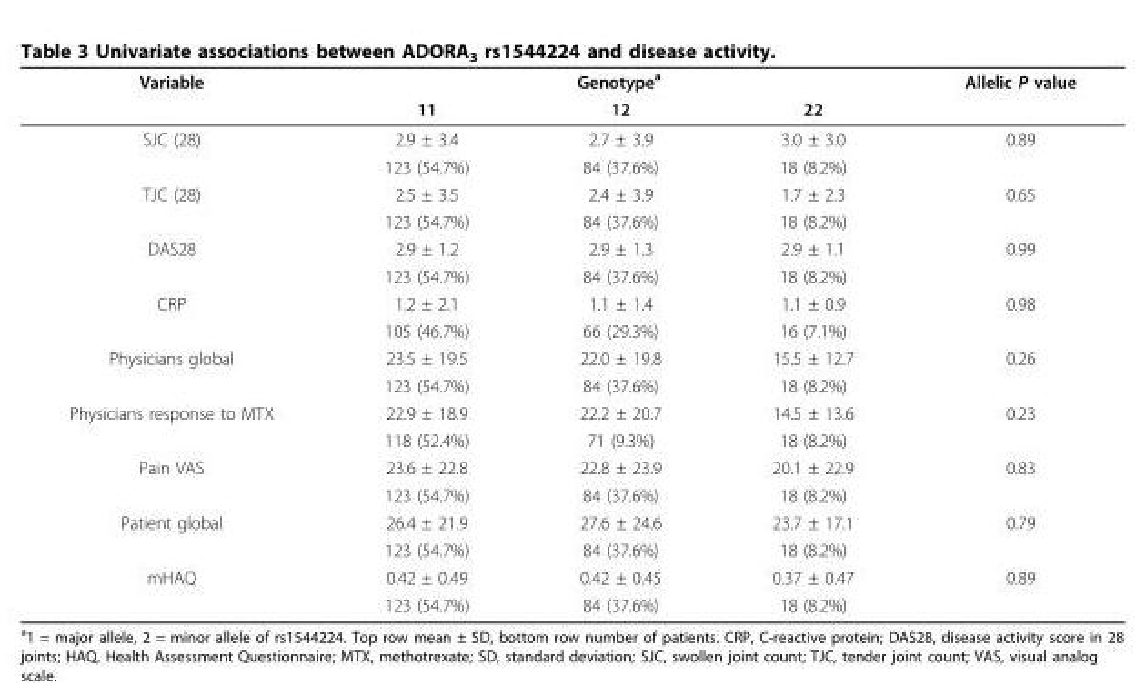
<table><thead><tr><td rowspan="2">Variable</td><td colspan="3">Genotype<sup>a</sup></td><td rowspan="2">Allelic P value</td></tr><tr><td>11</td><td>12</td><td>22</td></tr></thead><tbody><tr><td rowspan="2">SJC (28)</td><td>2.9 ± 3.4</td><td>2.7 ± 3.9</td><td>3.0 ± 3.0</td><td>0.89</td></tr><tr><td>123 (54.7%)</td><td>84 (37.6%)</td><td>18 (8.2%)</td><td></td></tr><tr><td rowspan="2">TJC (28)</td><td>2.5 ± 3.5</td><td>2.4 ± 3.9</td><td>1.7 ± 2.3</td><td>0.65</td></tr><tr><td>123 (54.7%)</td><td>84 (37.6%)</td><td>18 (8.2%)</td><td></td></tr><tr><td rowspan="2">DAS28</td><td>2.9 ± 1.2</td><td>2.9 ± 1.3</td><td>2.9 ± 1.1</td><td>0.99</td></tr><tr><td>123 (54.7%)</td><td>84 (37.6%)</td><td>18 (8.2%)</td><td></td></tr><tr><td rowspan="2">CRP</td><td>1.2 ± 2.1</td><td>1.1 ± 1.4</td><td>1.1 ± 0.9</td><td>0.98</td></tr><tr><td>105 (46.7%)</td><td>66 (29.3%)</td><td>16 (7.1%)</td><td></td></tr><tr><td rowspan="2">Physicians global</td><td>23.5 ± 19.5</td><td>22.0 ± 19.8</td><td>15.5 ± 12.7</td><td>0.26</td></tr><tr><td>123 (54.7%)</td><td>84 (37.6%)</td><td>18 (8.2%)</td><td></td></tr><tr><td rowspan="2">Physicians response to MTX</td><td>22.9 ± 18.9</td><td>22.2 ± 20.7</td><td>14.5 ± 13.6</td><td>0.23</td></tr><tr><td>118 (52.4%)</td><td>71 (9.3%)</td><td>18 (8.2%)</td><td></td></tr><tr><td rowspan="2">Pain VAS</td><td>23.6 ± 22.8</td><td>22.8 ± 23.9</td><td>20.1 ± 22.9</td><td>0.83</td></tr><tr><td>123 (54.7%)</td><td>84 (37.6%)</td><td>18 (8.2%)</td><td></td></tr><tr><td rowspan="2">Patient global</td><td>26.4 ± 21.9</td><td>27.6 ± 24.6</td><td>23.7 ± 17.1</td><td>0.79</td></tr><tr><td>123 (54.7%)</td><td>84 (37.6%)</td><td>18 (8.2%)</td><td></td></tr><tr><td rowspan="2">mHAQ</td><td>0.42 ± 0.49</td><td>0.42 ± 0.45</td><td>0.37 ± 0.47</td><td>0.89</td></tr><tr><td>123 (54.7%)</td><td>84 (37.6%)</td><td>18 (8.2%)</td><td></td></tr></tbody></table>